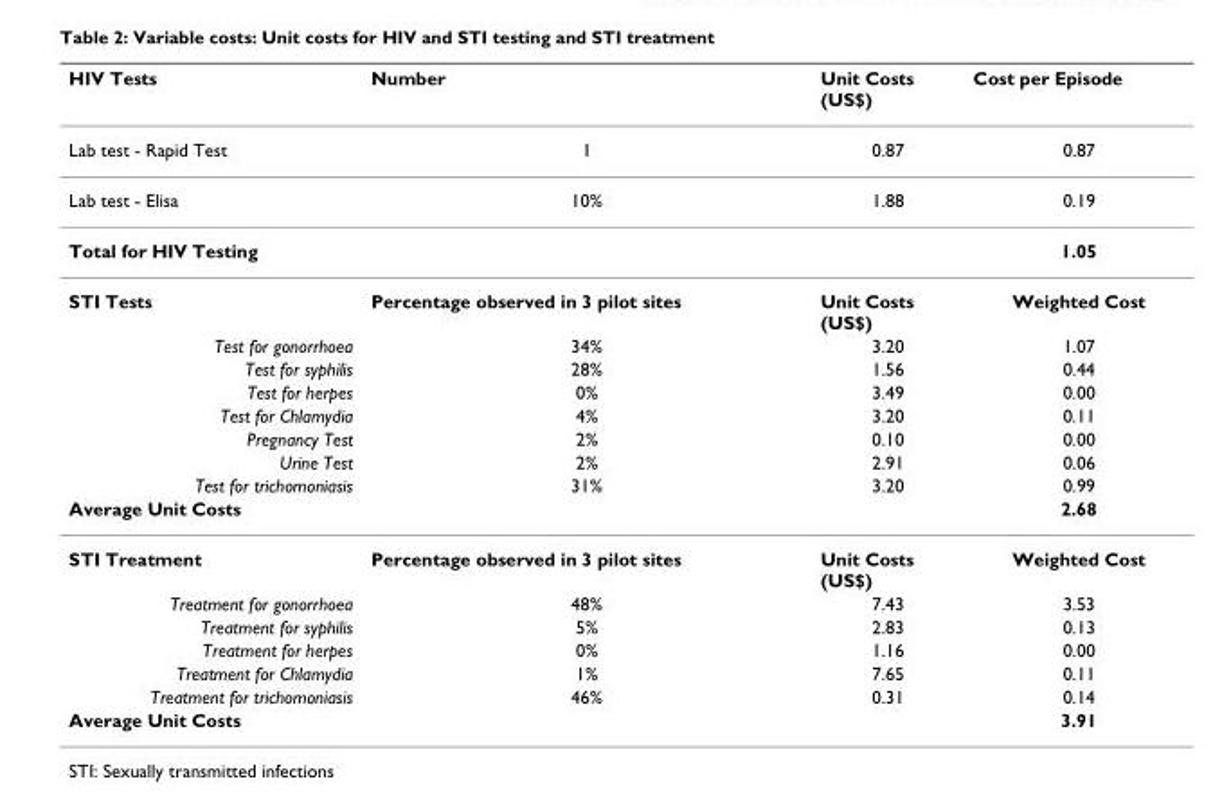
<table><thead><tr><td>HIV Tests</td><td>Number</td><td>Unit Costs (US$)</td><td>Cost per Episode</td></tr></thead><tbody><tr><td>Lab test - Rapid Test</td><td>1</td><td>0.87</td><td>0.87</td></tr><tr><td>Lab test - Elisa</td><td>10%</td><td>1.88</td><td>0.19</td></tr><tr><td>Total for HIV Testing</td><td></td><td></td><td>1.05</td></tr><tr><td>STI Tests</td><td>Percentage observed in 3 pilot sites</td><td>Unit Costs (US$)</td><td>Weighted Cost</td></tr><tr><td>Test for gonorrhoea</td><td>34%</td><td>3.20</td><td>1.07</td></tr><tr><td>Test for syphilis</td><td>28%</td><td>1.56</td><td>0.44</td></tr><tr><td>Test for herpes</td><td>0%</td><td>3.49</td><td>0.00</td></tr><tr><td>Test for Chlamydia</td><td>4%</td><td>3.20</td><td>0.11</td></tr><tr><td>Pregnancy Test</td><td>2%</td><td>0.10</td><td>0.00</td></tr><tr><td>Urine Test</td><td>2%</td><td>2.91</td><td>0.06</td></tr><tr><td>Test for trichomoniasis</td><td>31%</td><td>3.20</td><td>0.99</td></tr><tr><td>Average Unit Costs</td><td></td><td></td><td>2.68</td></tr><tr><td>STI Treatment</td><td>Percentage observed in 3 pilot sites</td><td>Unit Costs (US$)</td><td>Weighted Cost</td></tr><tr><td>Treatment for gonorrhoea</td><td>48%</td><td>7.43</td><td>3.53</td></tr><tr><td>Treatment for syphilis</td><td>5%</td><td>2.83</td><td>0.13</td></tr><tr><td>Treatment for herpes</td><td>0%</td><td>1.16</td><td>0.00</td></tr><tr><td>Treatment for Chlamydia</td><td>1%</td><td>7.65</td><td>0.11</td></tr><tr><td>Treatment for trichomoniasis</td><td>46%</td><td>0.31</td><td>0.14</td></tr><tr><td>Average Unit Costs</td><td></td><td></td><td>3.91</td></tr></tbody></table>